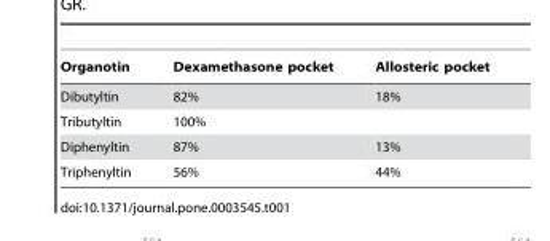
<table><thead><tr><td>Organotin</td><td>Dexamethasone pocket</td><td>Allosteric pocket</td></tr></thead><tbody><tr><td>Dibutyltin</td><td>82%</td><td>18%</td></tr><tr><td>Tributyltin</td><td>100%</td><td></td></tr><tr><td>Diphenyltin</td><td>87%</td><td>13%</td></tr><tr><td>Triphenyltin</td><td>56%</td><td>44%</td></tr></tbody></table>